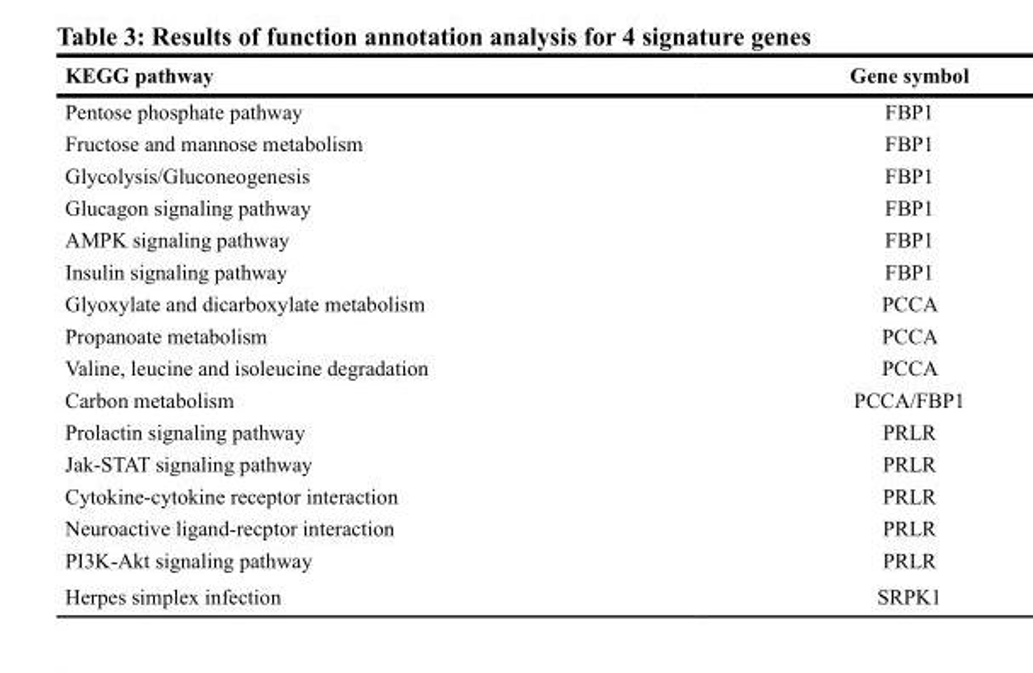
<table><thead><tr><td>KEGG pathway</td><td>Gene symbol</td></tr></thead><tbody><tr><td>Pentose phosphate pathway</td><td>FBP1</td></tr><tr><td>Fructose and mannose metabolism</td><td>FBP1</td></tr><tr><td>Glycolysis/Gluconeogenesis</td><td>FBP1</td></tr><tr><td>Glucagon signaling pathway</td><td>FBP1</td></tr><tr><td>AMPK signaling pathway</td><td>FBP1</td></tr><tr><td>Insulin signaling pathway</td><td>FBP1</td></tr><tr><td>Glyoxylate and dicarboxylate metabolism</td><td>PCCA</td></tr><tr><td>Propanoate metabolism</td><td>PCCA</td></tr><tr><td>Valine, leucine and isoleucine degradation</td><td>PCCA</td></tr><tr><td>Carbon metabolism</td><td>PCCA/FBP1</td></tr><tr><td>Prolactin signaling pathway</td><td>PRLR</td></tr><tr><td>Jak-STAT signaling pathway</td><td>PRLR</td></tr><tr><td>Cytokine-cytokine receptor interaction</td><td>PRLR</td></tr><tr><td>Neuroactive ligand-recptor interaction</td><td>PRLR</td></tr><tr><td>PI3K-Akt signaling pathway</td><td>PRLR</td></tr><tr><td>Herpes simplex infection</td><td>SRPK1</td></tr></tbody></table>